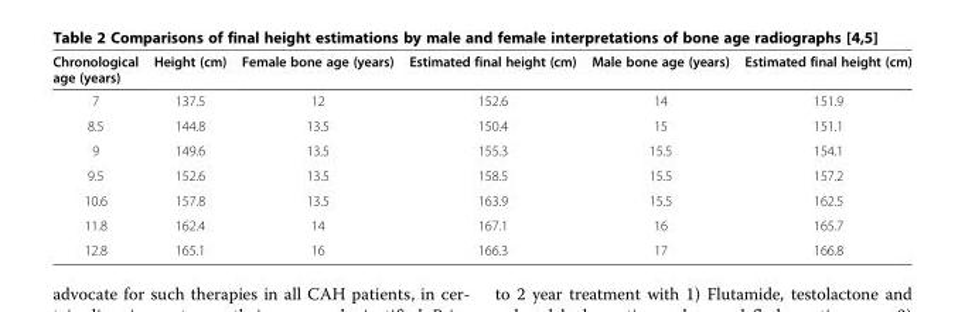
<table><thead><tr><td>Chronological age (years)</td><td>Height (cm)</td><td>Female bone age (years)</td><td>Estimated final height (cm)</td><td>Male bone age (years)</td><td>Estimated final height (cm)</td></tr></thead><tbody><tr><td>7</td><td>137.5</td><td>12</td><td>152.6</td><td>14</td><td>151.9</td></tr><tr><td>8.5</td><td>144.8</td><td>13.5</td><td>150.4</td><td>15</td><td>151.1</td></tr><tr><td>9</td><td>149.6</td><td>13.5</td><td>155.3</td><td>15.5</td><td>154.1</td></tr><tr><td>9.5</td><td>152.6</td><td>13.5</td><td>158.5</td><td>15.5</td><td>157.2</td></tr><tr><td>10.6</td><td>157.8</td><td>13.5</td><td>163.9</td><td>15.5</td><td>162.5</td></tr><tr><td>11.8</td><td>162.4</td><td>14</td><td>167.1</td><td>16</td><td>165.7</td></tr><tr><td>12.8</td><td>165.1</td><td>16</td><td>166.3</td><td>17</td><td>166.8</td></tr></tbody></table>